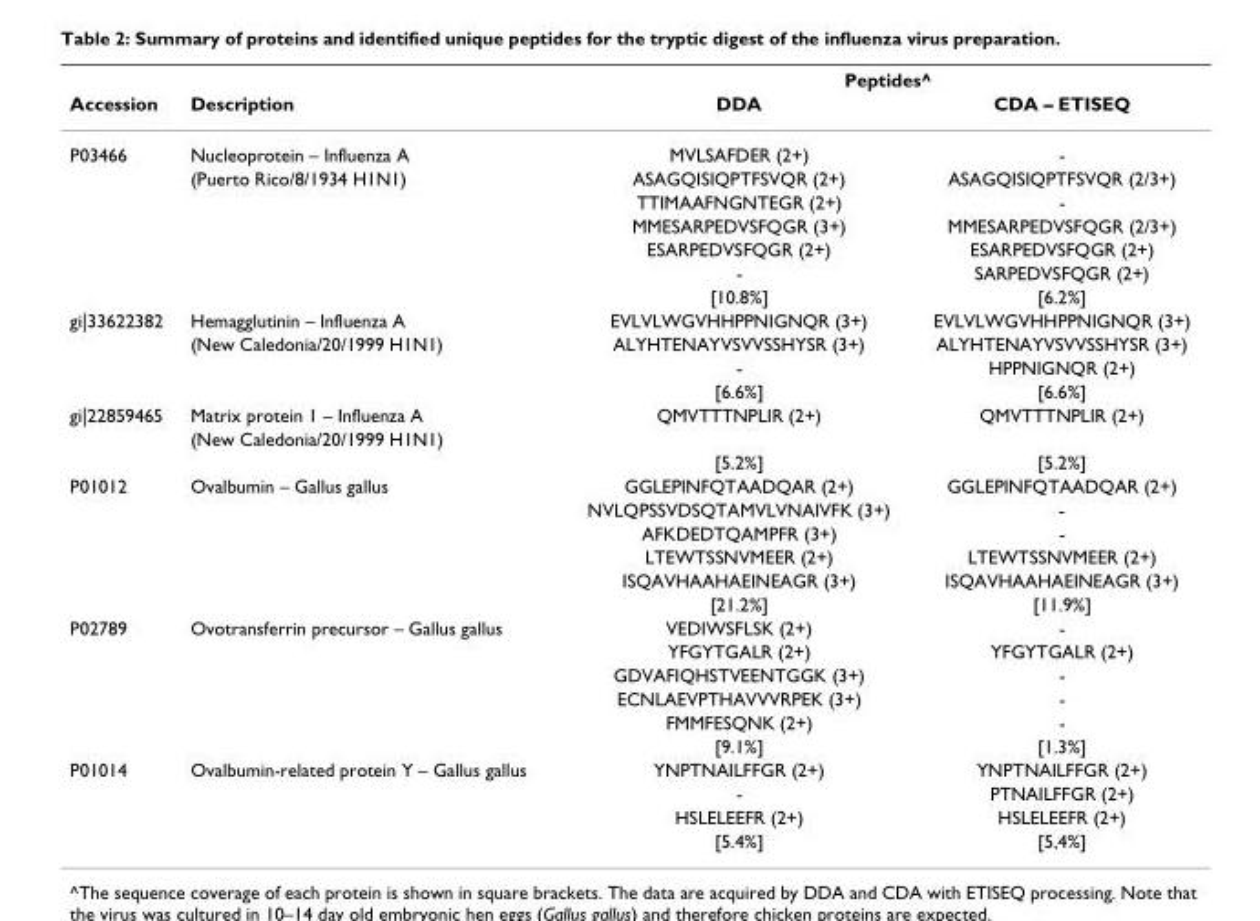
<table><thead><tr><td rowspan="2">Accession</td><td rowspan="2">Description</td><td colspan="2">Peptides^</td></tr><tr><td>DDA</td><td>CDA – ETISEQ</td></tr></thead><tbody><tr><td rowspan="7">P03466</td><td>Nucleoprotein – Influenza A</td><td>MVLSAFDER (2+)</td><td>-</td></tr><tr><td>(Puerto Rico/8/1934 H1N1)</td><td>ASAGQISIQPTFSVQR (2+)</td><td>ASAGQISIQPTFSVQR (2/3+)</td></tr><tr><td></td><td>TTIMAAFNGNTEGR (2+)</td><td>-</td></tr><tr><td></td><td>MMESARPEDVSFQGR (3+)</td><td>MMESARPEDVSFQGR (2/3+)</td></tr><tr><td></td><td>ESARPEDVSFQGR (2+)</td><td>ESARPEDVSFQGR (2+)</td></tr><tr><td></td><td>-</td><td>SARPEDVSFQGR (2+)</td></tr><tr><td></td><td>[10.8%]</td><td>[6.2%]</td></tr><tr><td rowspan="4">gi|33622382</td><td>Hemagglutinin – Influenza A</td><td>EVLVLWGVHHPPNIGNQR (3+)</td><td>EVLVLWGVHHPPNIGNQR (3+)</td></tr><tr><td>(New Caledonia/20/1999 H1N1)</td><td>ALYHTENAYVSVVSSHYSR (3+)</td><td>ALYHTENAYVSVVSSHYSR (3+)</td></tr><tr><td></td><td>-</td><td>HPPNIGNQR (2+)</td></tr><tr><td></td><td>[6.6%]</td><td>[6.6%]</td></tr><tr><td rowspan="3">gi|22859465</td><td>Matrix protein 1 – Influenza A</td><td>QMVTTTNPLIR (2+)</td><td>QMVTTTNPLIR (2+)</td></tr><tr><td>(New Caledonia/20/1999 H1N1)</td><td></td><td></td></tr><tr><td></td><td>[5.2%]</td><td>[5.2%]</td></tr><tr><td rowspan="6">P01012</td><td>Ovalbumin – Gallus gallus</td><td>GGLEPINFQTAADQAR (2+)</td><td>GGLEPINFQTAADQAR (2+)</td></tr><tr><td></td><td>NVLQPSSVDSQTAMVLVNAIVFK (3+)</td><td>-</td></tr><tr><td></td><td>AFKDEDTQAMPFR (3+)</td><td>-</td></tr><tr><td></td><td>LTEWTSSNVMEER (2+)</td><td>LTEWTSSNVMEER (2+)</td></tr><tr><td></td><td>ISQAVHAAHAEINEAGR (3+)</td><td>ISQAVHAAHAEINEAGR (3+)</td></tr><tr><td></td><td>[21.2%]</td><td>[11.9%]</td></tr><tr><td rowspan="6">P02789</td><td>Ovotransferrin precursor – Gallus gallus</td><td>VEDIWSFLSK (2+)</td><td>-</td></tr><tr><td></td><td>YFGYTGALR (2+)</td><td>YFGYTGALR (2+)</td></tr><tr><td></td><td>GDVAFIQHSTVEENTGGK (3+)</td><td>-</td></tr><tr><td></td><td>ECNLAEVPTHAVVVRPEK (3+)</td><td>-</td></tr><tr><td></td><td>FMMFESQNK (2+)</td><td>-</td></tr><tr><td></td><td>[9.1%]</td><td>[1.3%]</td></tr><tr><td rowspan="4">P01014</td><td>Ovalbumin-related protein Y – Gallus gallus</td><td>YNPTNAILFFGR (2+)</td><td>YNPTNAILFFGR (2+)</td></tr><tr><td></td><td>-</td><td>PTNAILFFGR (2+)</td></tr><tr><td></td><td>HSLELEEFR (2+)</td><td>HSLELEEFR (2+)</td></tr><tr><td></td><td>[5.4%]</td><td>[5,4%]</td></tr></tbody></table>